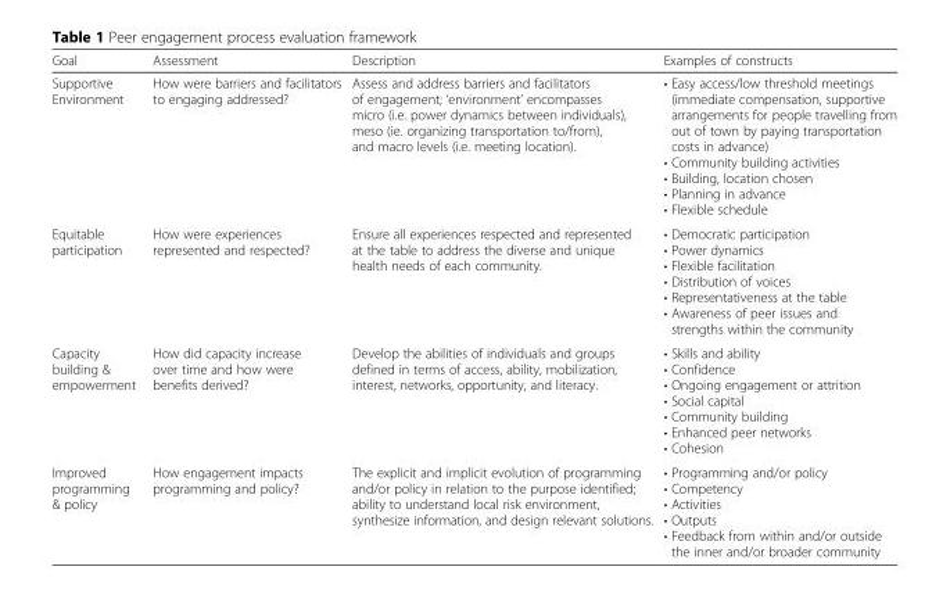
<table><thead><tr><td>Goal</td><td>Assessment</td><td>Description</td><td>Examples of constructs</td></tr></thead><tbody><tr><td>Supportive Environment</td><td>How were barriers and facilitators to engaging addressed?</td><td>Assess and address barriers and facilitators of engagement; ‘environment’ encompasses micro (i.e. power dynamics between individuals), meso (ie. organizing transportation to/from), and macro levels (i.e. meeting location).</td><td>• Easy access/low threshold meetings (immediate compensation, supportive arrangements for people travelling from out of town by paying transportation costs in advance) • Community building activities • Building, location chosen • Planning in advance • Flexible schedule</td></tr><tr><td>Equitable participation</td><td>How were experiences represented and respected?</td><td>Ensure all experiences respected and represented at the table to address the diverse and unique health needs of each community.</td><td>• Democratic participation • Power dynamics • Flexible facilitation • Distribution of voices • Representativeness at the table • Awareness of peer issues and strengths within the community</td></tr><tr><td>Capacity building &amp; empowerment</td><td>How did capacity increase over time and how were benefits derived?</td><td>Develop the abilities of individuals and groups defined in terms of access, ability, mobilization, interest, networks, opportunity, and literacy.</td><td>• Skills and ability • Confidence • Ongoing engagement or attrition • Social capital • Community building • Enhanced peer networks • Cohesion</td></tr><tr><td>Improved programming &amp; policy</td><td>How engagement impacts programming and policy?</td><td>The explicit and implicit evolution of programming and/or policy in relation to the purpose identified; ability to understand local risk environment, synthesize information, and design relevant solutions.</td><td>• Programming and/or policy • Competency • Activities • Outputs • Feedback from within and/or outside the inner and/or broader community</td></tr></tbody></table>